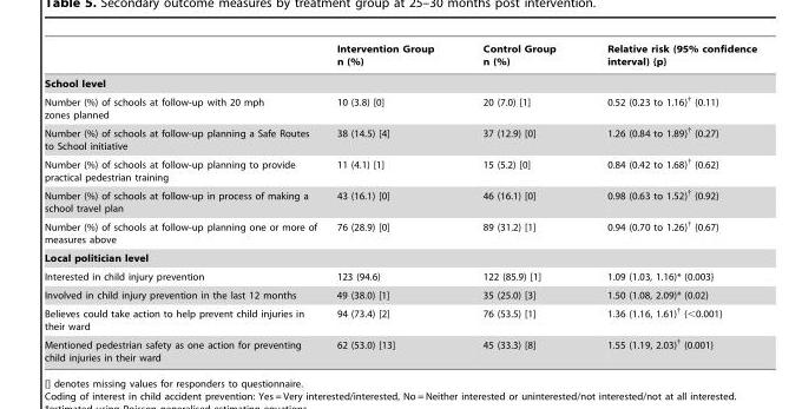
<table><thead><tr><td></td><td>Intervention Group n (%)</td><td>Control Group n (%)</td><td>Relative risk (95% confidence interval) {p}</td></tr></thead><tbody><tr><td colspan="4">School level</td></tr><tr><td>Number (%) of schools at follow-up with 20 mph zones planned</td><td>10 (3.8) [0]</td><td>20 (7.0) [1]</td><td>0.52 (0.23 to 1.16)† {0.11}</td></tr><tr><td>Number (%) of schools at follow-up planning a Safe Routes to School initiative</td><td>38 (14.5) [4]</td><td>37 (12.9) [0]</td><td>1.26 (0.84 to 1.89)† {0.27}</td></tr><tr><td>Number (%) of schools at follow-up planning to provide practical pedestrian training</td><td>11 (4.1) [1]</td><td>15 (5.2) [0]</td><td>0.84 (0.42 to 1.68)† {0.62}</td></tr><tr><td>Number (%) of schools at follow-up in process of making a school travel plan</td><td>43 (16.1) [0]</td><td>46 (16.1) [0]</td><td>0.98 (0.63 to 1.52)† {0.92}</td></tr><tr><td>Number (%) of schools at follow-up planning one or more of measures above</td><td>76 (28.9) [0]</td><td>89 (31.2) [1]</td><td>0.94 (0.70 to 1.26)† {0.67}</td></tr><tr><td colspan="4">Local politician level</td></tr><tr><td>Interested in child injury prevention</td><td>123 (94.6)</td><td>122 (85.9) [1]</td><td>1.09 (1.03, 1.16)* {0.003}</td></tr><tr><td>Involved in child injury prevention in the last 12 months</td><td>49 (38.0) [1]</td><td>35 (25.0) [3]</td><td>1.50 (1.08, 2.09)* {0.02}</td></tr><tr><td>Believes could take action to help prevent child injuries in their ward</td><td>94 (73.4) [2]</td><td>76 (53.5) [1]</td><td>1.36 (1.16, 1.61)† {&lt;0.001}</td></tr><tr><td>Mentioned pedestrian safety as one action for preventing child injuries in their ward</td><td>62 (53.0) [13]</td><td>45 (33.3) [8]</td><td>1.55 (1.19, 2.03)† {0.001}</td></tr></tbody></table>